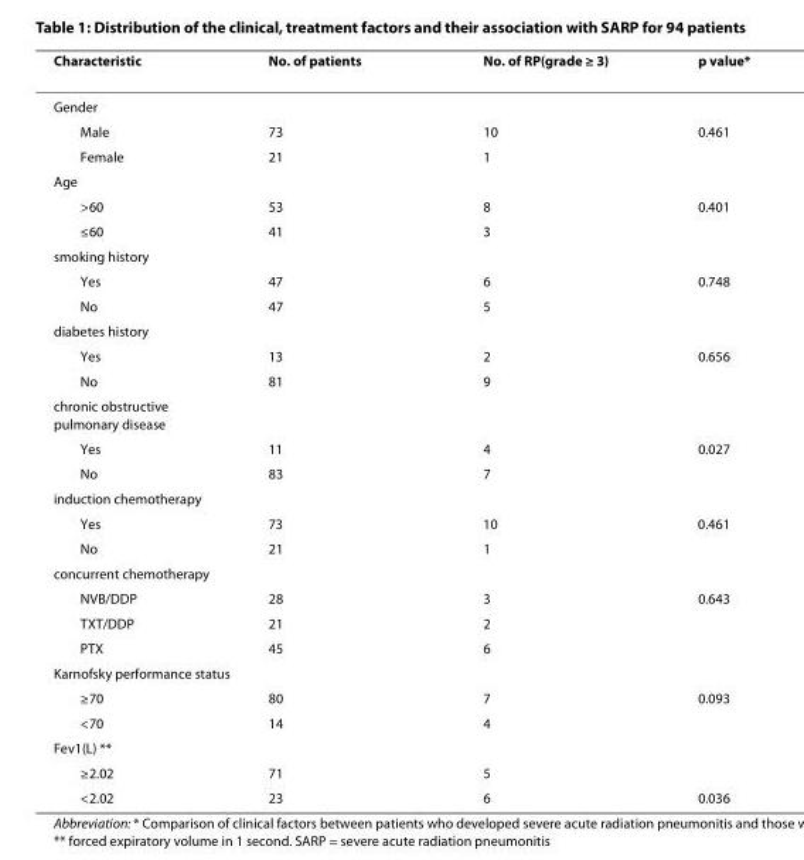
<table><thead><tr><td>Characteristic</td><td>No. of patients</td><td>No. of RP(grade ≥ 3)</td><td>p value*</td></tr></thead><tbody><tr><td colspan="4">Gender</td></tr><tr><td>Male</td><td>73</td><td>10</td><td>0.461</td></tr><tr><td>Female</td><td>21</td><td>1</td><td></td></tr><tr><td colspan="4">Age</td></tr><tr><td>&gt;60</td><td>53</td><td>8</td><td>0.401</td></tr><tr><td>≤60</td><td>41</td><td>3</td><td></td></tr><tr><td colspan="4">smoking history</td></tr><tr><td>Yes</td><td>47</td><td>6</td><td>0.748</td></tr><tr><td>No</td><td>47</td><td>5</td><td></td></tr><tr><td colspan="4">diabetes history</td></tr><tr><td>Yes</td><td>13</td><td>2</td><td>0.656</td></tr><tr><td>No</td><td>81</td><td>9</td><td></td></tr><tr><td colspan="4">chronic obstructive pulmonary disease</td></tr><tr><td>Yes</td><td>11</td><td>4</td><td>0.027</td></tr><tr><td>No</td><td>83</td><td>7</td><td></td></tr><tr><td colspan="4">induction chemotherapy</td></tr><tr><td>Yes</td><td>73</td><td>10</td><td>0.461</td></tr><tr><td>No</td><td>21</td><td>1</td><td></td></tr><tr><td colspan="4">concurrent chemotherapy</td></tr><tr><td>NVB/DDP</td><td>28</td><td>3</td><td>0.643</td></tr><tr><td>TXT/DDP</td><td>21</td><td>2</td><td></td></tr><tr><td>PTX</td><td>45</td><td>6</td><td></td></tr><tr><td colspan="4">Karnofsky performance status</td></tr><tr><td>≥70</td><td>80</td><td>7</td><td>0.093</td></tr><tr><td>&lt;70</td><td>14</td><td>4</td><td></td></tr><tr><td colspan="4">Fev1(L) **</td></tr><tr><td>≥2.02</td><td>71</td><td>5</td><td></td></tr><tr><td>&lt;2.02</td><td>23</td><td>6</td><td>0.036</td></tr></tbody></table>